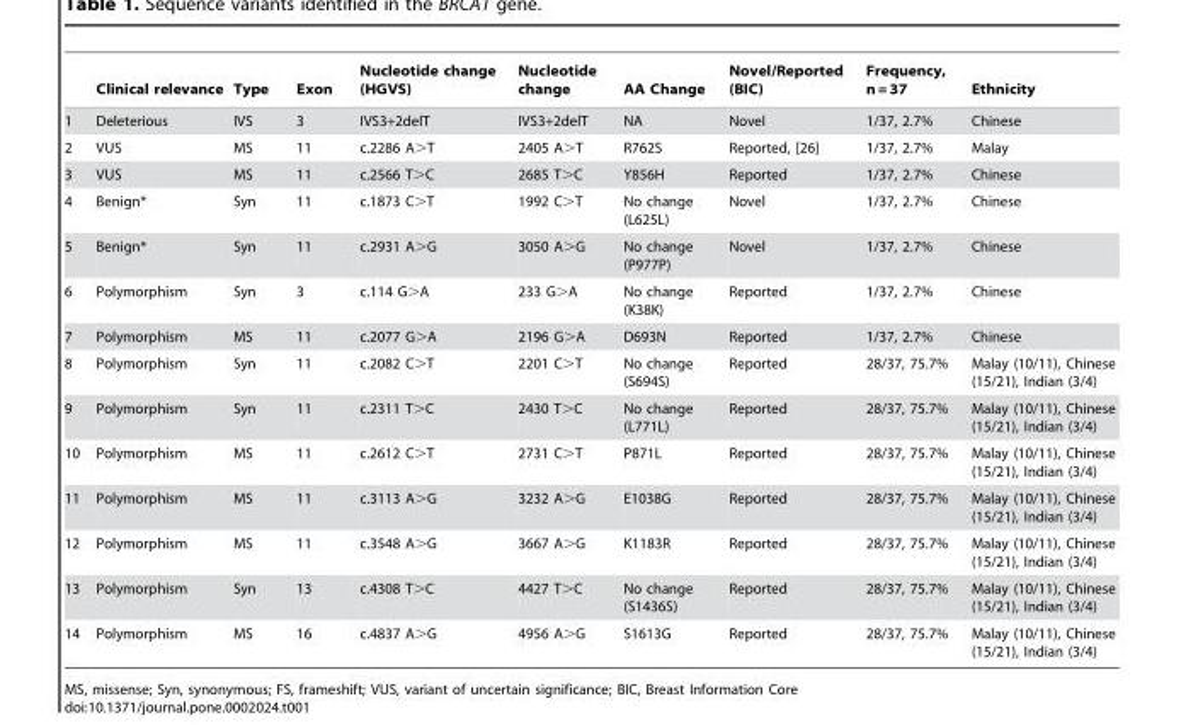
<table><thead><tr><td></td><td>Clinical relevance</td><td>Type</td><td>Exon</td><td>Nucleotide change (HGVS)</td><td>Nucleotide change</td><td>AA Change</td><td>Novel/Reported (BIC)</td><td>Frequency, n = 37</td><td>Ethnicity</td></tr></thead><tbody><tr><td>1</td><td>Deleterious</td><td>IVS</td><td>3</td><td>IVS3+2delT</td><td>IVS3+2delT</td><td>NA</td><td>Novel</td><td>1/37, 2.7%</td><td>Chinese</td></tr><tr><td>2</td><td>VUS</td><td>MS</td><td>11</td><td>c.2286 A&gt;T</td><td>2405 A&gt;T</td><td>R762S</td><td>Reported, [26]</td><td>1/37, 2.7%</td><td>Malay</td></tr><tr><td>3</td><td>VUS</td><td>MS</td><td>11</td><td>c.2566 T&gt;C</td><td>2685 T&gt;C</td><td>Y856H</td><td>Reported</td><td>1/37, 2.7%</td><td>Chinese</td></tr><tr><td>4</td><td>Benign*</td><td>Syn</td><td>11</td><td>c.1873 C&gt;T</td><td>1992 C&gt;T</td><td>No change (L625L)</td><td>Novel</td><td>1/37, 2.7%</td><td>Chinese</td></tr><tr><td>5</td><td>Benign*</td><td>Syn</td><td>11</td><td>c.2931 A&gt;G</td><td>3050 A&gt;G</td><td>No change (P977P)</td><td>Novel</td><td>1/37, 2.7%</td><td>Chinese</td></tr><tr><td>6</td><td>Polymorphism</td><td>Syn</td><td>3</td><td>c.114 G&gt;A</td><td>233 G&gt;A</td><td>No change (K38K)</td><td>Reported</td><td>1/37, 2.7%</td><td>Chinese</td></tr><tr><td>7</td><td>Polymorphism</td><td>MS</td><td>11</td><td>c.2077 G&gt;A</td><td>2196 G&gt;A</td><td>D693N</td><td>Reported</td><td>1/37, 2.7%</td><td>Chinese</td></tr><tr><td>8</td><td>Polymorphism</td><td>Syn</td><td>11</td><td>c.2082 C&gt;T</td><td>2201 C&gt;T</td><td>No change (S694S)</td><td>Reported</td><td>28/37, 75.7%</td><td>Malay (10/11), Chinese (15/21), Indian (3/4)</td></tr><tr><td>9</td><td>Polymorphism</td><td>Syn</td><td>11</td><td>c.2311 T&gt;C</td><td>2430 T&gt;C</td><td>No change (L771L)</td><td>Reported</td><td>28/37, 75.7%</td><td>Malay (10/11), Chinese (15/21), Indian (3/4)</td></tr><tr><td>10</td><td>Polymorphism</td><td>MS</td><td>11</td><td>c.2612 C&gt;T</td><td>2731 C&gt;T</td><td>P871L</td><td>Reported</td><td>28/37, 75.7%</td><td>Malay (10/11), Chinese (15/21), Indian (3/4)</td></tr><tr><td>11</td><td>Polymorphism</td><td>MS</td><td>11</td><td>c.3113 A&gt;G</td><td>3232 A&gt;G</td><td>E1038G</td><td>Reported</td><td>28/37, 75.7%</td><td>Malay (10/11), Chinese (15/21), Indian (3/4)</td></tr><tr><td>12</td><td>Polymorphism</td><td>MS</td><td>11</td><td>c.3548 A&gt;G</td><td>3667 A&gt;G</td><td>K1183R</td><td>Reported</td><td>28/37, 75.7%</td><td>Malay (10/11), Chinese (15/21), Indian (3/4)</td></tr><tr><td>13</td><td>Polymorphism</td><td>Syn</td><td>13</td><td>c.4308 T&gt;C</td><td>4427 T&gt;C</td><td>No change (S1436S)</td><td>Reported</td><td>28/37, 75.7%</td><td>Malay (10/11), Chinese (15/21), Indian (3/4)</td></tr><tr><td>14</td><td>Polymorphism</td><td>MS</td><td>16</td><td>c.4837 A&gt;G</td><td>4956 A&gt;G</td><td>S1613G</td><td>Reported</td><td>28/37, 75.7%</td><td>Malay (10/11), Chinese (15/21), Indian (3/4)</td></tr></tbody></table>